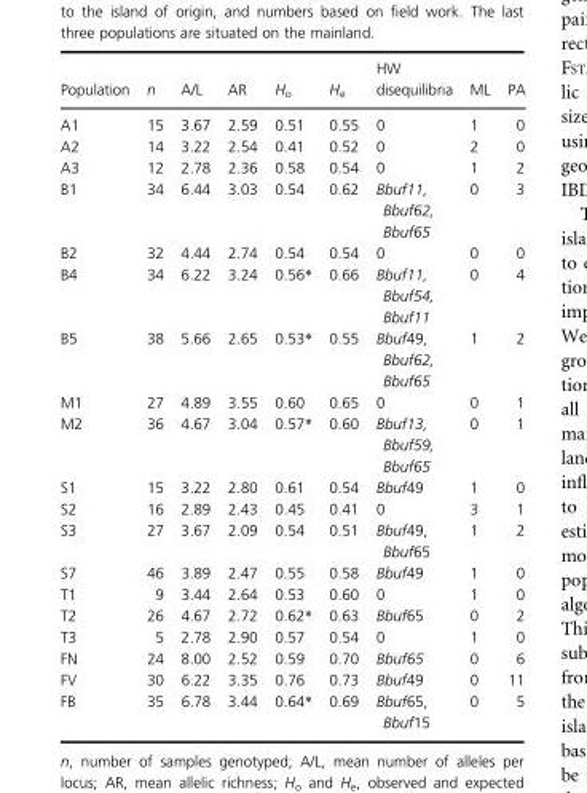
<table><thead><tr><td>Population</td><td>n</td><td>A/L</td><td>AR</td><td>H<sub>o</sub></td><td>H<sub>e</sub></td><td>HW disequilibria</td><td>ML</td><td>PA</td></tr></thead><tbody><tr><td>A1</td><td>15</td><td>3.67</td><td>2.59</td><td>0.51</td><td>0.55</td><td>0</td><td>1</td><td>0</td></tr><tr><td>A2</td><td>14</td><td>3.22</td><td>2.54</td><td>0.41</td><td>0.52</td><td>0</td><td>2</td><td>0</td></tr><tr><td>A3</td><td>12</td><td>2.78</td><td>2.36</td><td>0.58</td><td>0.54</td><td>0</td><td>1</td><td>2</td></tr><tr><td>B1</td><td>34</td><td>6.44</td><td>3.03</td><td>0.54</td><td>0.62</td><td>Bbuf11, Bbuf62, Bbuf65</td><td>0</td><td>3</td></tr><tr><td>B2</td><td>32</td><td>4.44</td><td>2.74</td><td>0.54</td><td>0.54</td><td>0</td><td>0</td><td>0</td></tr><tr><td>B4</td><td>34</td><td>6.22</td><td>3.24</td><td>0.56*</td><td>0.66</td><td>Bbuf11, Bbuf54, Bbuf11</td><td>0</td><td>4</td></tr><tr><td>B5</td><td>38</td><td>5.66</td><td>2.65</td><td>0.53*</td><td>0.55</td><td>Bbuf49, Bbuf62, Bbuf65</td><td>1</td><td>2</td></tr><tr><td>M1</td><td>27</td><td>4.89</td><td>3.55</td><td>0.60</td><td>0.65</td><td>0</td><td>0</td><td>1</td></tr><tr><td>M2</td><td>36</td><td>4.67</td><td>3.04</td><td>0.57*</td><td>0.60</td><td>Bbuf13, Bbuf59, Bbuf65</td><td>0</td><td>1</td></tr><tr><td>S1</td><td>15</td><td>3.22</td><td>2.80</td><td>0.61</td><td>0.54</td><td>Bbuf49</td><td>1</td><td>0</td></tr><tr><td>S2</td><td>16</td><td>2.89</td><td>2.43</td><td>0.45</td><td>0.41</td><td>0</td><td>3</td><td>1</td></tr><tr><td>S3</td><td>27</td><td>3.67</td><td>2.09</td><td>0.54</td><td>0.51</td><td>Bbuf49, Bbuf65</td><td>1</td><td>2</td></tr><tr><td>S7</td><td>46</td><td>3.89</td><td>2.47</td><td>0.55</td><td>0.58</td><td>Bbuf49</td><td>1</td><td>0</td></tr><tr><td>T1</td><td>9</td><td>3.44</td><td>2.64</td><td>0.53</td><td>0.60</td><td>0</td><td>1</td><td>0</td></tr><tr><td>T2</td><td>26</td><td>4.67</td><td>2.72</td><td>0.62*</td><td>0.63</td><td>Bbuf65</td><td>0</td><td>2</td></tr><tr><td>T3</td><td>5</td><td>2.78</td><td>2.90</td><td>0.57</td><td>0.54</td><td>0</td><td>1</td><td>0</td></tr><tr><td>FN</td><td>24</td><td>8.00</td><td>2.52</td><td>0.59</td><td>0.70</td><td>Bbuf65</td><td>0</td><td>6</td></tr><tr><td>FV</td><td>30</td><td>6.22</td><td>3.35</td><td>0.76</td><td>0.73</td><td>Bbuf49</td><td>0</td><td>11</td></tr><tr><td>FB</td><td>35</td><td>6.78</td><td>3.44</td><td>0.64*</td><td>0.69</td><td>Bbuf65, Bbuf15</td><td>0</td><td>5</td></tr></tbody></table>